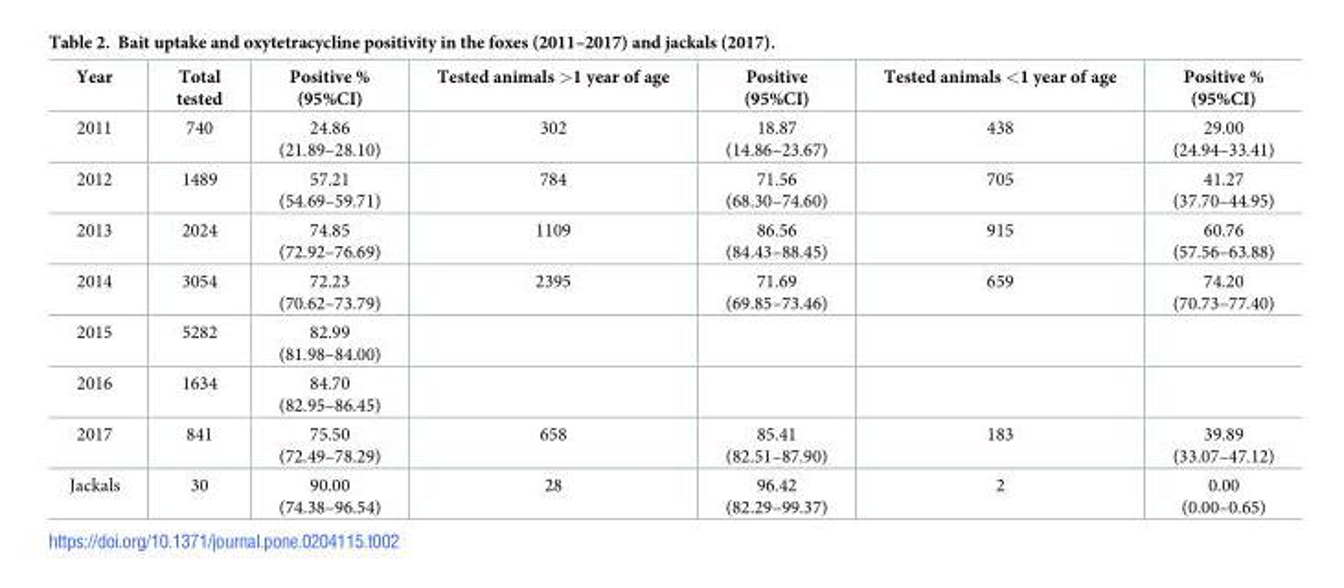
<table><thead><tr><td>Year</td><td>Total tested</td><td>Positive % (95%CI)</td><td>Tested animals &gt;1 year of age</td><td>Positive (95%CI)</td><td>Tested animals &lt;1 year of age</td><td>Positive % (95%CI)</td></tr></thead><tbody><tr><td>2011</td><td>740</td><td>24.86 (21.89–28.10)</td><td>302</td><td>18.87 (14.86–23.67)</td><td>438</td><td>29.00 (24.94–33.41)</td></tr><tr><td>2012</td><td>1489</td><td>57.21 (54.69–59.71)</td><td>784</td><td>71.56 (68.30–74.60)</td><td>705</td><td>41.27 (37.70–44.95)</td></tr><tr><td>2013</td><td>2024</td><td>74.85 (72.92–76.69)</td><td>1109</td><td>86.56 (84.43–88.45)</td><td>915</td><td>60.76 (57.56–63.88)</td></tr><tr><td>2014</td><td>3054</td><td>72.23 (70.62–73.79)</td><td>2395</td><td>71.69 (69.85–73.46)</td><td>659</td><td>74.20 (70.73–77.40)</td></tr><tr><td>2015</td><td>5282</td><td>82.99 (81.98–84.00)</td><td></td><td></td><td></td><td></td></tr><tr><td>2016</td><td>1634</td><td>84.70 (82.95–86.45)</td><td></td><td></td><td></td><td></td></tr><tr><td>2017</td><td>841</td><td>75.50 (72.49–78.29)</td><td>658</td><td>85.41 (82.51–87.90)</td><td>183</td><td>39.89 (33.07–47.12)</td></tr><tr><td>Jackals</td><td>30</td><td>90.00 (74.38–96.54)</td><td>28</td><td>96.42 (82.29–99.37)</td><td>2</td><td>0.00 (0.00–0.65)</td></tr></tbody></table>